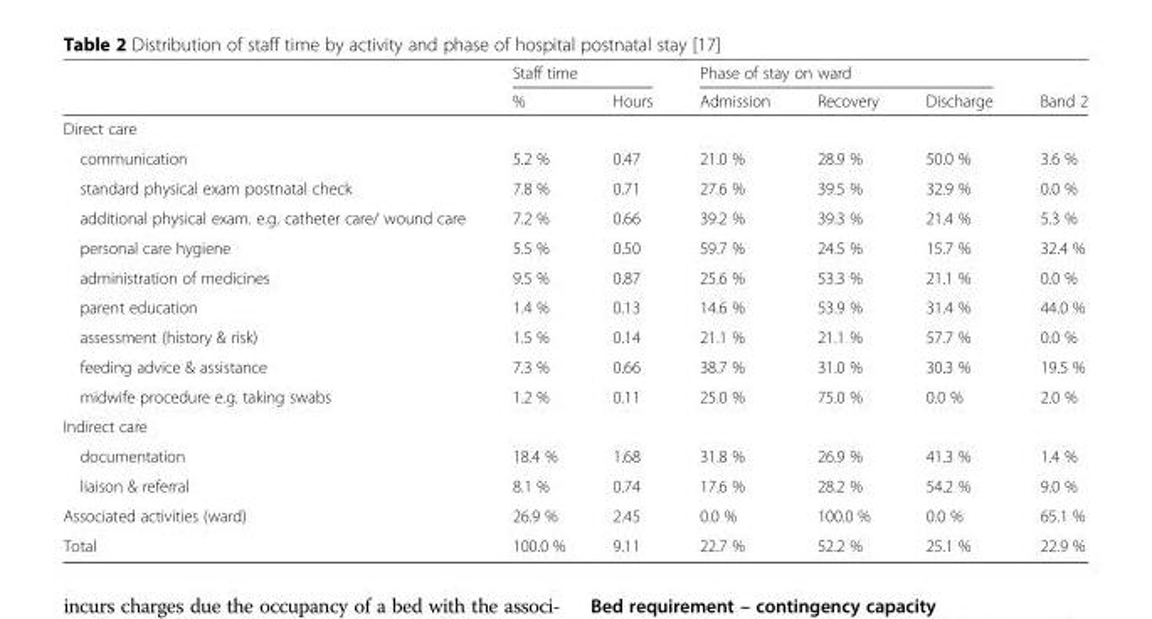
<table><thead><tr><td rowspan="2"></td><td colspan="2">Staff time</td><td colspan="3">Phase of stay on ward</td><td rowspan="2">Band 2</td></tr><tr><td>%</td><td>Hours</td><td>Admission</td><td>Recovery</td><td>Discharge</td></tr></thead><tbody><tr><td colspan="7">Direct care</td></tr><tr><td>communication</td><td>5.2 %</td><td>0.47</td><td>21.0 %</td><td>28.9 %</td><td>50.0 %</td><td>3.6 %</td></tr><tr><td>standard physical exam postnatal check</td><td>7.8 %</td><td>0.71</td><td>27.6 %</td><td>39.5 %</td><td>32.9 %</td><td>0.0 %</td></tr><tr><td>additional physical exam. e.g. catheter care/ wound care</td><td>7.2 %</td><td>0.66</td><td>39.2 %</td><td>39.3 %</td><td>21.4 %</td><td>5.3 %</td></tr><tr><td>personal care hygiene</td><td>5.5 %</td><td>0.50</td><td>59.7 %</td><td>24.5 %</td><td>15.7 %</td><td>32.4 %</td></tr><tr><td>administration of medicines</td><td>9.5 %</td><td>0.87</td><td>25.6 %</td><td>53.3 %</td><td>21.1 %</td><td>0.0 %</td></tr><tr><td>parent education</td><td>1.4 %</td><td>0.13</td><td>14.6 %</td><td>53.9 %</td><td>31.4 %</td><td>44.0 %</td></tr><tr><td>assessment (history &amp; risk)</td><td>1.5 %</td><td>0.14</td><td>21.1 %</td><td>21.1 %</td><td>57.7 %</td><td>0.0 %</td></tr><tr><td>feeding advice &amp; assistance</td><td>7.3 %</td><td>0.66</td><td>38.7 %</td><td>31.0 %</td><td>30.3 %</td><td>19.5 %</td></tr><tr><td>midwife procedure e.g. taking swabs</td><td>1.2 %</td><td>0.11</td><td>25.0 %</td><td>75.0 %</td><td>0.0 %</td><td>2.0 %</td></tr><tr><td colspan="7">Indirect care</td></tr><tr><td>documentation</td><td>18.4 %</td><td>1.68</td><td>31.8 %</td><td>26.9 %</td><td>41.3 %</td><td>1.4 %</td></tr><tr><td>liaison &amp; referral</td><td>8.1 %</td><td>0.74</td><td>17.6 %</td><td>28.2 %</td><td>54.2 %</td><td>9.0 %</td></tr><tr><td>Associated activities (ward)</td><td>26.9 %</td><td>2.45</td><td>0.0 %</td><td>100.0 %</td><td>0.0 %</td><td>65.1 %</td></tr><tr><td>Total</td><td>100.0 %</td><td>9.11</td><td>22.7 %</td><td>52.2 %</td><td>25.1 %</td><td>22.9 %</td></tr></tbody></table>